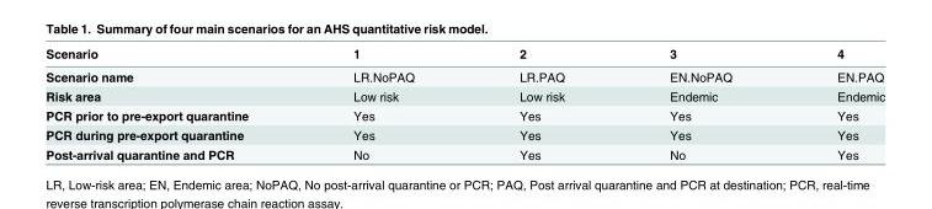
<table><thead><tr><td>Scenario</td><td>1</td><td>2</td><td>3</td><td>4</td></tr></thead><tbody><tr><td>Scenario name</td><td>LR.NoPAQ</td><td>LR.PAQ</td><td>EN.NoPAQ</td><td>EN.PAQ</td></tr><tr><td>Risk area</td><td>Low risk</td><td>Low risk</td><td>Endemic</td><td>Endemic</td></tr><tr><td>PCR prior to pre-export quarantine</td><td>Yes</td><td>Yes</td><td>Yes</td><td>Yes</td></tr><tr><td>PCR during pre-export quarantine</td><td>Yes</td><td>Yes</td><td>Yes</td><td>Yes</td></tr><tr><td>Post-arrival quarantine and PCR</td><td>No</td><td>Yes</td><td>No</td><td>Yes</td></tr></tbody></table>